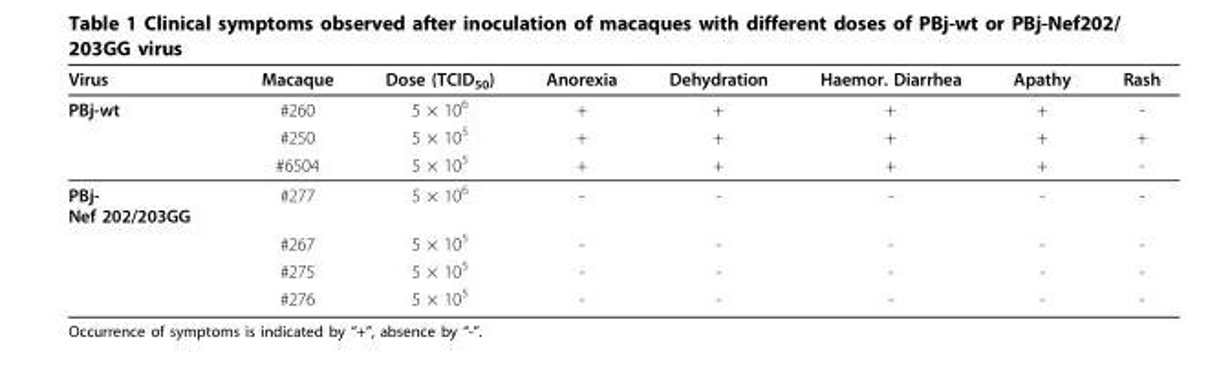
<table><thead><tr><td>Virus</td><td>Macaque</td><td>Dose (TCID<sub>50</sub>)</td><td>Anorexia</td><td>Dehydration</td><td>Haemor. Diarrhea</td><td>Apathy</td><td>Rash</td></tr></thead><tbody><tr><td rowspan="3">PBj-wt</td><td>#260</td><td>5 × 10<sup>6</sup></td><td>+</td><td>+</td><td>+</td><td>+</td><td>-</td></tr><tr><td>#250</td><td>5 × 10<sup>5</sup></td><td>+</td><td>+</td><td>+</td><td>+</td><td>+</td></tr><tr><td>#6504</td><td>5 × 10<sup>5</sup></td><td>+</td><td>+</td><td>+</td><td>+</td><td>-</td></tr><tr><td rowspan="4">PBj- Nef 202/203GG</td><td>#277</td><td>5 × 10<sup>6</sup></td><td>-</td><td>-</td><td>-</td><td>-</td><td>-</td></tr><tr><td>#267</td><td>5 × 10<sup>5</sup></td><td>-</td><td>-</td><td>-</td><td>-</td><td>-</td></tr><tr><td>#275</td><td>5 × 10<sup>5</sup></td><td>-</td><td>-</td><td>-</td><td>-</td><td>-</td></tr><tr><td>#276</td><td>5 × 10<sup>5</sup></td><td>-</td><td>-</td><td>-</td><td>-</td><td>-</td></tr></tbody></table>